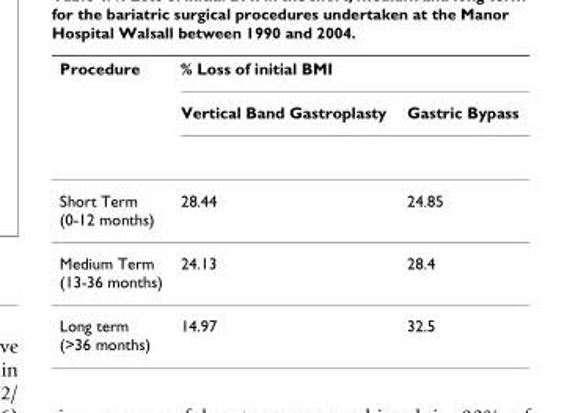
<table><thead><tr><td rowspan="2">Procedure</td><td colspan="2">% Loss of initial BMI</td></tr><tr><td>Vertical Band Gastroplasty</td><td>Gastric Bypass</td></tr></thead><tbody><tr><td>Short Term (0-12 months)</td><td>28.44</td><td>24.85</td></tr><tr><td>Medium Term (13-36 months)</td><td>24.13</td><td>28.4</td></tr><tr><td>Long term (&gt;36 months)</td><td>14.97</td><td>32.5</td></tr></tbody></table>